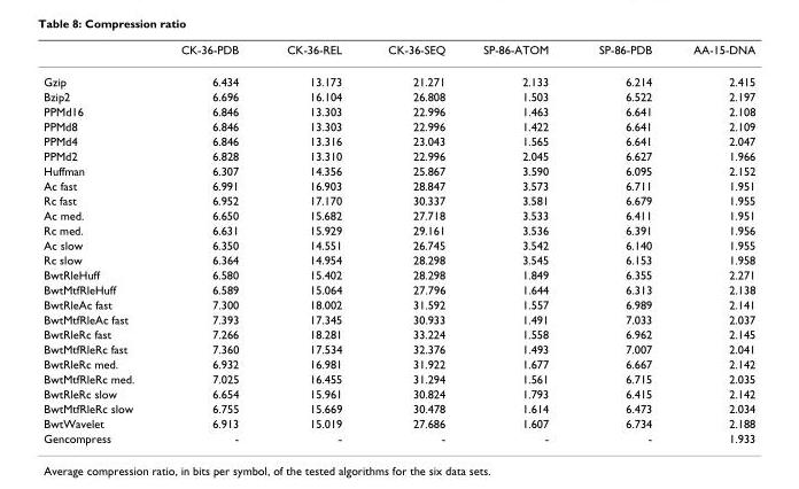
<table><thead><tr><td></td><td>CK-36-PDB</td><td>CK-36-REL</td><td>CK-36-SEQ</td><td>SP-86-ATOM</td><td>SP-86-PDB</td><td>AA-15-DNA</td></tr></thead><tbody><tr><td>Gzip</td><td>6.434</td><td>13.173</td><td>21.271</td><td>2.133</td><td>6.214</td><td>2.415</td></tr><tr><td>Bzip2</td><td>6.696</td><td>16.104</td><td>26.808</td><td>1.503</td><td>6.522</td><td>2.197</td></tr><tr><td>PPMd16</td><td>6.846</td><td>13.303</td><td>22.996</td><td>1.463</td><td>6.641</td><td>2.108</td></tr><tr><td>PPMd8</td><td>6.846</td><td>13.303</td><td>22.996</td><td>1.422</td><td>6.641</td><td>2.109</td></tr><tr><td>PPMd4</td><td>6.846</td><td>13.316</td><td>23.043</td><td>1.565</td><td>6.641</td><td>2.047</td></tr><tr><td>PPMd2</td><td>6.828</td><td>13.310</td><td>22.996</td><td>2.045</td><td>6.627</td><td>1.966</td></tr><tr><td>Huffman</td><td>6.307</td><td>14.356</td><td>25.867</td><td>3.590</td><td>6.095</td><td>2.152</td></tr><tr><td>Ac fast</td><td>6.991</td><td>16.903</td><td>28.847</td><td>3.573</td><td>6.711</td><td>1.951</td></tr><tr><td>Rc fast</td><td>6.952</td><td>17.170</td><td>30.337</td><td>3.581</td><td>6.679</td><td>1.955</td></tr><tr><td>Ac med.</td><td>6.650</td><td>15.682</td><td>27.718</td><td>3.533</td><td>6.411</td><td>1.951</td></tr><tr><td>Rc med.</td><td>6.631</td><td>15.929</td><td>29.161</td><td>3.536</td><td>6.391</td><td>1.956</td></tr><tr><td>Ac slow</td><td>6.350</td><td>14.551</td><td>26.745</td><td>3.542</td><td>6.140</td><td>1.955</td></tr><tr><td>Rc slow</td><td>6.364</td><td>14.954</td><td>28.298</td><td>3.545</td><td>6.153</td><td>1.958</td></tr><tr><td>BwtRleHuff</td><td>6.580</td><td>15.402</td><td>28.298</td><td>1.849</td><td>6.355</td><td>2.271</td></tr><tr><td>BwtMtfRleHuff</td><td>6.589</td><td>15.064</td><td>27.796</td><td>1.644</td><td>6.313</td><td>2.138</td></tr><tr><td>BwtRleAc fast</td><td>7.300</td><td>18.002</td><td>31.592</td><td>1.557</td><td>6.989</td><td>2.141</td></tr><tr><td>BwtMtfRleAc fast</td><td>7.393</td><td>17.345</td><td>30.933</td><td>1.491</td><td>7.033</td><td>2.037</td></tr><tr><td>BwtRleRc fast</td><td>7.266</td><td>18.281</td><td>33.224</td><td>1.558</td><td>6.962</td><td>2.145</td></tr><tr><td>BwtMtfRleRc fast</td><td>7.360</td><td>17.534</td><td>32.376</td><td>1.493</td><td>7.007</td><td>2.041</td></tr><tr><td>BwtRleRc med.</td><td>6.932</td><td>16.981</td><td>31.922</td><td>1.677</td><td>6.667</td><td>2.142</td></tr><tr><td>BwtMtfRleRc med.</td><td>7.025</td><td>16.455</td><td>31.294</td><td>1.561</td><td>6.715</td><td>2.035</td></tr><tr><td>BwtRleRc slow</td><td>6.654</td><td>15.961</td><td>30.824</td><td>1.793</td><td>6.415</td><td>2.142</td></tr><tr><td>BwtMtfRleRc slow</td><td>6.755</td><td>15.669</td><td>30.478</td><td>1.614</td><td>6.473</td><td>2.034</td></tr><tr><td>BwtWavelet</td><td>6.913</td><td>15.019</td><td>27.686</td><td>1.607</td><td>6.734</td><td>2.188</td></tr><tr><td>Gencompress</td><td>-</td><td>-</td><td>-</td><td>-</td><td>-</td><td>1.933</td></tr></tbody></table>